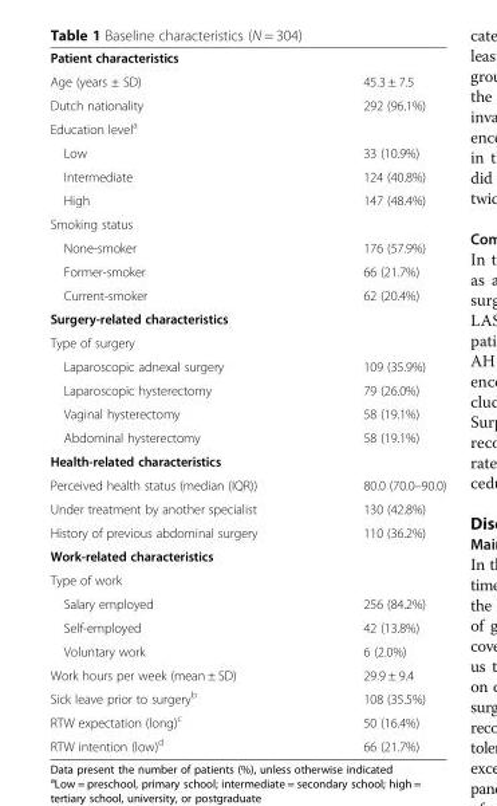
<table><tbody><tr><td colspan="2">Patient characteristics</td></tr><tr><td>Age (years ± SD)</td><td>45.3 ± 7.5</td></tr><tr><td>Dutch nationality</td><td>292 (96.1%)</td></tr><tr><td colspan="2">Education level<sup>a</sup></td></tr><tr><td>Low</td><td>33 (10.9%)</td></tr><tr><td>Intermediate</td><td>124 (40.8%)</td></tr><tr><td>High</td><td>147 (48.4%)</td></tr><tr><td colspan="2">Smoking status</td></tr><tr><td>None-smoker</td><td>176 (57.9%)</td></tr><tr><td>Former-smoker</td><td>66 (21.7%)</td></tr><tr><td>Current-smoker</td><td>62 (20.4%)</td></tr><tr><td colspan="2">Surgery-related characteristics</td></tr><tr><td colspan="2">Type of surgery</td></tr><tr><td>Laparoscopic adnexal surgery</td><td>109 (35.9%)</td></tr><tr><td>Laparoscopic hysterectomy</td><td>79 (26.0%)</td></tr><tr><td>Vaginal hysterectomy</td><td>58 (19.1%)</td></tr><tr><td>Abdominal hysterectomy</td><td>58 (19.1%)</td></tr><tr><td colspan="2">Health-related characteristics</td></tr><tr><td>Perceived health status (median (IQR))</td><td>80.0 (70.0–90.0)</td></tr><tr><td>Under treatment by another specialist</td><td>130 (42.8%)</td></tr><tr><td>History of previous abdominal surgery</td><td>110 (36.2%)</td></tr><tr><td colspan="2">Work-related characteristics</td></tr><tr><td colspan="2">Type of work</td></tr><tr><td>Salary employed</td><td>256 (84.2%)</td></tr><tr><td>Self-employed</td><td>42 (13.8%)</td></tr><tr><td>Voluntary work</td><td>6 (2.0%)</td></tr><tr><td>Work hours per week (mean ± SD)</td><td>29.9 ± 9.4</td></tr><tr><td>Sick leave prior to surgery<sup>b</sup></td><td>108 (35.5%)</td></tr><tr><td>RTW expectation (long)<sup>c</sup></td><td>50 (16.4%)</td></tr><tr><td>RTW intention (low)<sup>d</sup></td><td>66 (21.7%)</td></tr></tbody></table>